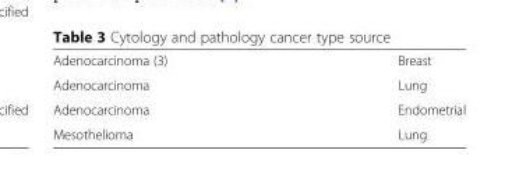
<table><tbody><tr><td>Adenocarcinoma (3)</td><td>Breast</td></tr><tr><td>Adenocarcinoma</td><td>Lung</td></tr><tr><td>Adenocarcinoma</td><td>Endometrial</td></tr><tr><td>Mesothelioma</td><td>Lung</td></tr></tbody></table>